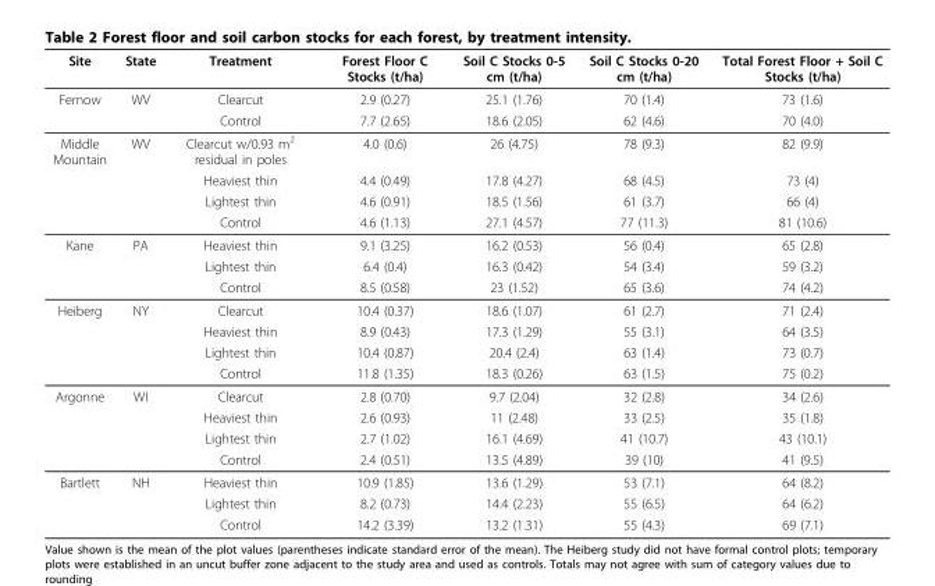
<table><thead><tr><td>Site</td><td>State</td><td>Treatment</td><td>Forest Floor C Stocks (t/ha)</td><td>Soil C Stocks 0-5 cm (t/ha)</td><td>Soil C Stocks 0-20 cm (t/ha)</td><td>Total Forest Floor + Soil C Stocks (t/ha)</td></tr></thead><tbody><tr><td rowspan="2">Fernow</td><td>WV</td><td>Clearcut</td><td>2.9 (0.27)</td><td>25.1 (1.76)</td><td>70 (1.4)</td><td>73 (1.6)</td></tr><tr><td></td><td>Control</td><td>7.7 (2.65)</td><td>18.6 (2.05)</td><td>62 (4.6)</td><td>70 (4.0)</td></tr><tr><td rowspan="4">Middle Mountain</td><td>WV</td><td>Clearcut w/0.93 m<sup>2</sup> residual in poles</td><td>4.0 (0.6)</td><td>26 (4.75)</td><td>78 (9.3)</td><td>82 (9.9)</td></tr><tr><td></td><td>Heaviest thin</td><td>4.4 (0.49)</td><td>17.8 (4.27)</td><td>68 (4.5)</td><td>73 (4)</td></tr><tr><td></td><td>Lightest thin</td><td>4.6 (0.91)</td><td>18.5 (1.56)</td><td>61 (3.7)</td><td>66 (4)</td></tr><tr><td></td><td>Control</td><td>4.6 (1.13)</td><td>27.1 (4.57)</td><td>77 (11.3)</td><td>81 (10.6)</td></tr><tr><td rowspan="3">Kane</td><td>PA</td><td>Heaviest thin</td><td>9.1 (3.25)</td><td>16.2 (0.53)</td><td>56 (0.4)</td><td>65 (2.8)</td></tr><tr><td></td><td>Lightest thin</td><td>6.4 (0.4)</td><td>16.3 (0.42)</td><td>54 (3.4)</td><td>59 (3.2)</td></tr><tr><td></td><td>Control</td><td>8.5 (0.58)</td><td>23 (1.52)</td><td>65 (3.6)</td><td>74 (4.2)</td></tr><tr><td rowspan="4">Heiberg</td><td>NY</td><td>Clearcut</td><td>10.4 (0.37)</td><td>18.6 (1.07)</td><td>61 (2.7)</td><td>71 (2.4)</td></tr><tr><td></td><td>Heaviest thin</td><td>8.9 (0.43)</td><td>17.3 (1.29)</td><td>55 (3.1)</td><td>64 (3.5)</td></tr><tr><td></td><td>Lightest thin</td><td>10.4 (0.87)</td><td>20.4 (2.4)</td><td>63 (1.4)</td><td>73 (0.7)</td></tr><tr><td></td><td>Control</td><td>11.8 (1.35)</td><td>18.3 (0.26)</td><td>63 (1.5)</td><td>75 (0.2)</td></tr><tr><td rowspan="4">Argonne</td><td>WI</td><td>Clearcut</td><td>2.8 (0.70)</td><td>9.7 (2.04)</td><td>32 (2.8)</td><td>34 (2.6)</td></tr><tr><td></td><td>Heaviest thin</td><td>2.6 (0.93)</td><td>11 (2.48)</td><td>33 (2.5)</td><td>35 (1.8)</td></tr><tr><td></td><td>Lightest thin</td><td>2.7 (1.02)</td><td>16.1 (4.69)</td><td>41 (10.7)</td><td>43 (10.1)</td></tr><tr><td></td><td>Control</td><td>2.4 (0.51)</td><td>13.5 (4.89)</td><td>39 (10)</td><td>41 (9.5)</td></tr><tr><td rowspan="3">Bartlett</td><td>NH</td><td>Heaviest thin</td><td>10.9 (1.85)</td><td>13.6 (1.29)</td><td>53 (7.1)</td><td>64 (8.2)</td></tr><tr><td></td><td>Lightest thin</td><td>8.2 (0.73)</td><td>14.4 (2.23)</td><td>55 (6.5)</td><td>64 (6.2)</td></tr><tr><td></td><td>Control</td><td>14.2 (3.39)</td><td>13.2 (1.31)</td><td>55 (4.3)</td><td>69 (7.1)</td></tr></tbody></table>